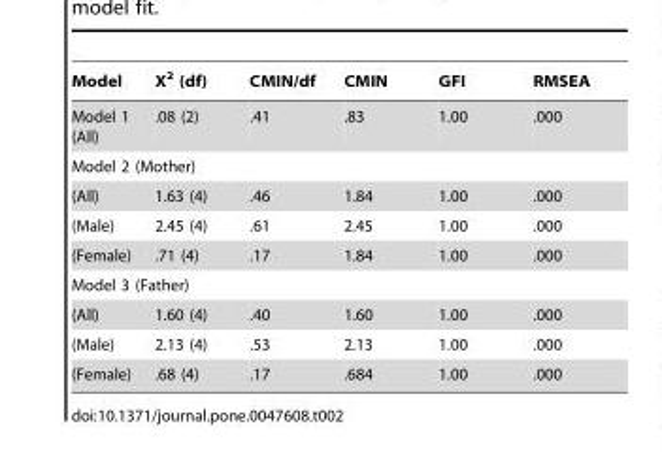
<table><thead><tr><td>Model</td><td>X<sup>2</sup> (df)</td><td>CMIN/df</td><td>CMIN</td><td>GFI</td><td>RMSEA</td></tr></thead><tbody><tr><td>Model 1 (All)</td><td>.08 (2)</td><td>.41</td><td>.83</td><td>1.00</td><td>.000</td></tr><tr><td colspan="6">Model 2 (Mother)</td></tr><tr><td>(All)</td><td>1.63 (4)</td><td>.46</td><td>1.84</td><td>1.00</td><td>.000</td></tr><tr><td>(Male)</td><td>2.45 (4)</td><td>.61</td><td>2.45</td><td>1.00</td><td>.000</td></tr><tr><td>(Female)</td><td>.71 (4)</td><td>.17</td><td>1.84</td><td>1.00</td><td>.000</td></tr><tr><td colspan="6">Model 3 (Father)</td></tr><tr><td>(All)</td><td>1.60 (4)</td><td>.40</td><td>1.60</td><td>1.00</td><td>.000</td></tr><tr><td>(Male)</td><td>2.13 (4)</td><td>.53</td><td>2.13</td><td>1.00</td><td>.000</td></tr><tr><td>(Female)</td><td>.68 (4)</td><td>.17</td><td>.684</td><td>1.00</td><td>.000</td></tr></tbody></table>